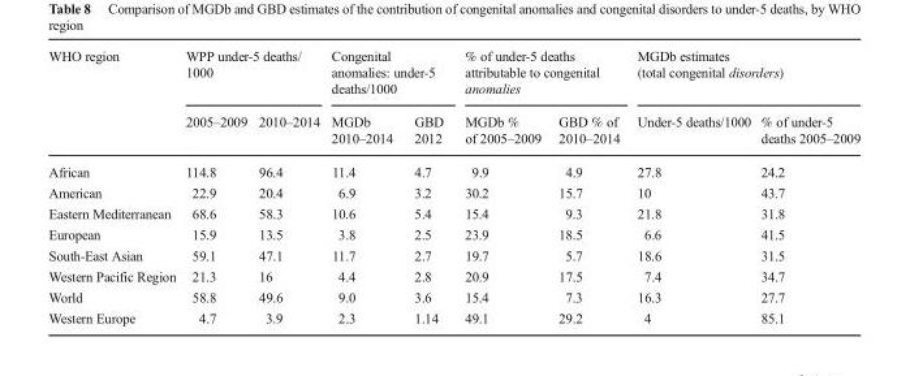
<table><thead><tr><td rowspan="2">WHO region</td><td colspan="2">WPP under-5 deaths/ 1000</td><td colspan="2">Congenital anomalies: under-5 deaths/1000</td><td colspan="2">% of under-5 deaths attributable to congenital anomalies</td><td colspan="2">MGDb estimates (total congenital disorders)</td></tr><tr><td>2005–2009</td><td>2010–2014</td><td>MGDb 2010–2014</td><td>GBD 2012</td><td>MGDb % of 2005–2009</td><td>GBD % of 2010–2014</td><td>Under-5 deaths/1000</td><td>% of under-5 deaths 2005–2009</td></tr></thead><tbody><tr><td>African</td><td>114.8</td><td>96.4</td><td>11.4</td><td>4.7</td><td>9.9</td><td>4.9</td><td>27.8</td><td>24.2</td></tr><tr><td>American</td><td>22.9</td><td>20.4</td><td>6.9</td><td>3.2</td><td>30.2</td><td>15.7</td><td>10</td><td>43.7</td></tr><tr><td>Eastern Mediterranean</td><td>68.6</td><td>58.3</td><td>10.6</td><td>5.4</td><td>15.4</td><td>9.3</td><td>21.8</td><td>31.8</td></tr><tr><td>European</td><td>15.9</td><td>13.5</td><td>3.8</td><td>2.5</td><td>23.9</td><td>18.5</td><td>6.6</td><td>41.5</td></tr><tr><td>South-East Asian</td><td>59.1</td><td>47.1</td><td>11.7</td><td>2.7</td><td>19.7</td><td>5.7</td><td>18.6</td><td>31.5</td></tr><tr><td>Western Pacific Region</td><td>21.3</td><td>16</td><td>4.4</td><td>2.8</td><td>20.9</td><td>17.5</td><td>7.4</td><td>34.7</td></tr><tr><td>World</td><td>58.8</td><td>49.6</td><td>9.0</td><td>3.6</td><td>15.4</td><td>7.3</td><td>16.3</td><td>27.7</td></tr><tr><td>Western Europe</td><td>4.7</td><td>3.9</td><td>2.3</td><td>1.14</td><td>49.1</td><td>29.2</td><td>4</td><td>85.1</td></tr></tbody></table>